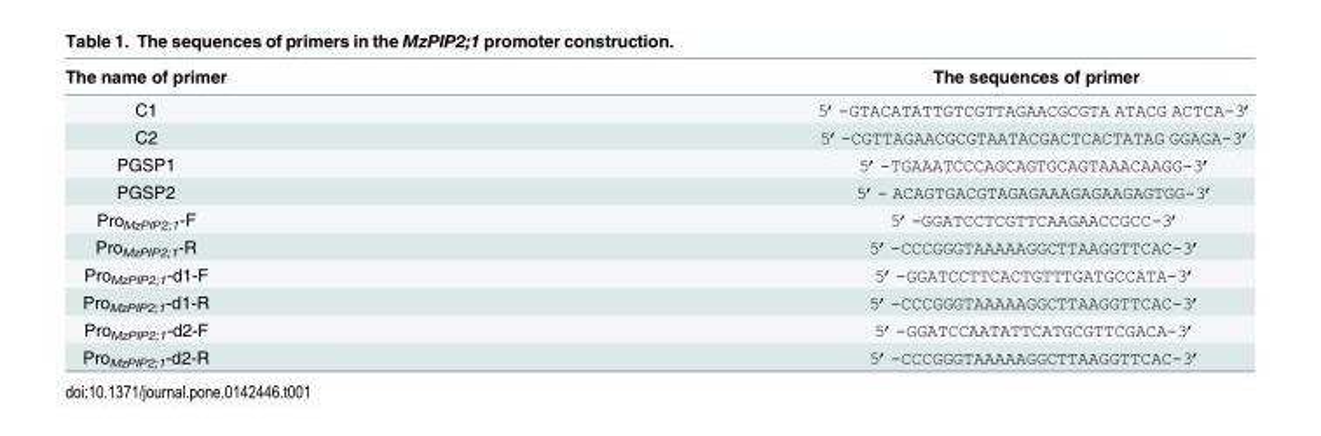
<table><thead><tr><td>The name of primer</td><td>The sequences of primer</td></tr></thead><tbody><tr><td>C1</td><td>5’-GTACATATTGTCGTTAGAACGCGTA ATACG ACTCA-3’</td></tr><tr><td>C2</td><td>5’-CGTTAGAACGCGTAATACGACTCACTATAG GGAGA-3’</td></tr><tr><td>PGSP1</td><td>5’-TGAAATCCCAGCAGTGCAGTAAACAAGG-3’</td></tr><tr><td>PGSP2</td><td>5’- ACAGTGACGTAGAGAAAGAGAAGAGTGG-3’</td></tr><tr><td>Pro<sub>MzPIP2;1</sub>-F</td><td>5’-GGATCCTCGTTCAAGAACCGCC-3’</td></tr><tr><td>Pro<sub>MzPIP2;1</sub>-R</td><td>5’-CCCGGGTAAAAAGGCTTAAGGTTCAC-3’</td></tr><tr><td>Pro<sub>MzPIP2;1</sub>-d1-F</td><td>5’-GGATCCTTCACTGTTTGATGCCATA-3’</td></tr><tr><td>Pro<sub>MzPIP2;1</sub>-d1-R</td><td>5’-CCCGGGTAAAAAGGCTTAAGGTTCAC-3’</td></tr><tr><td>Pro<sub>MzPIP2;1</sub>-d2-F</td><td>5’-GGATCCAATATTCATGCGTTCGACA-3’</td></tr><tr><td>Pro<sub>MzPIP2;1</sub>-d2-R</td><td>5’-CCCGGGTAAAAAGGCTTAAGGTTCAC-3’</td></tr></tbody></table>